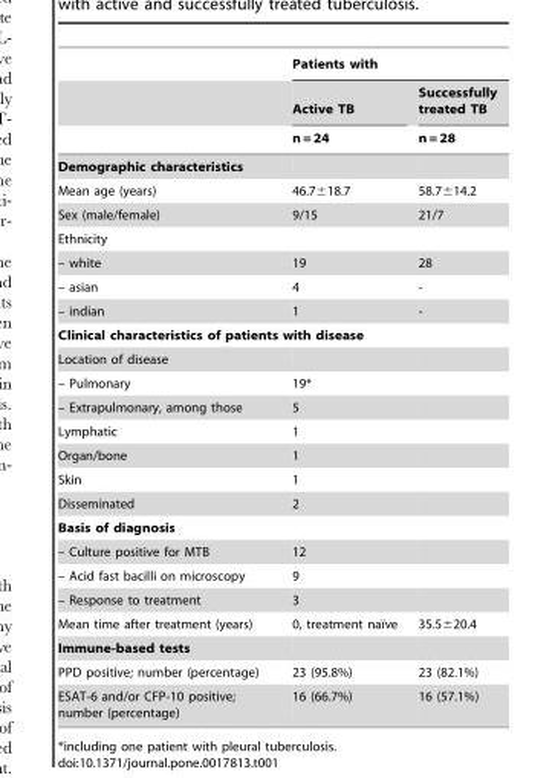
<table><thead><tr><td rowspan="3"></td><td colspan="2">Patients with</td></tr><tr><td rowspan="2">Active TB n = 24</td><td rowspan="2">Successfully treated TB n = 28</td></tr><tr></tr></thead><tbody><tr><td colspan="3">Demographic characteristics</td></tr><tr><td>Mean age (years)</td><td>46.7±18.7</td><td>58.7±14.2</td></tr><tr><td>Sex (male/female)</td><td>9/15</td><td>21/7</td></tr><tr><td colspan="3">Ethnicity</td></tr><tr><td>– white</td><td>19</td><td>28</td></tr><tr><td>– asian</td><td>4</td><td>-</td></tr><tr><td>– indian</td><td>1</td><td>-</td></tr><tr><td colspan="3">Clinical characteristics of patients with disease</td></tr><tr><td colspan="3">Location of disease</td></tr><tr><td>– Pulmonary</td><td>19*</td><td></td></tr><tr><td>– Extrapulmonary, among those</td><td>5</td><td></td></tr><tr><td>Lymphatic</td><td>1</td><td></td></tr><tr><td>Organ/bone</td><td>1</td><td></td></tr><tr><td>Skin</td><td>1</td><td></td></tr><tr><td>Disseminated</td><td>2</td><td></td></tr><tr><td colspan="3">Basis of diagnosis</td></tr><tr><td>– Culture positive for MTB</td><td>12</td><td></td></tr><tr><td>– Acid fast bacilli on microscopy</td><td>9</td><td></td></tr><tr><td>– Response to treatment</td><td>3</td><td></td></tr><tr><td>Mean time after treatment (years)</td><td>0, treatment naı¨ve</td><td>35.5±20.4</td></tr><tr><td colspan="3">Immune-based tests</td></tr><tr><td>PPD positive; number (percentage)</td><td>23 (95.8%)</td><td>23 (82.1%)</td></tr><tr><td>ESAT-6 and/or CFP-10 positive; number (percentage)</td><td>16 (66.7%)</td><td>16 (57.1%)</td></tr></tbody></table>